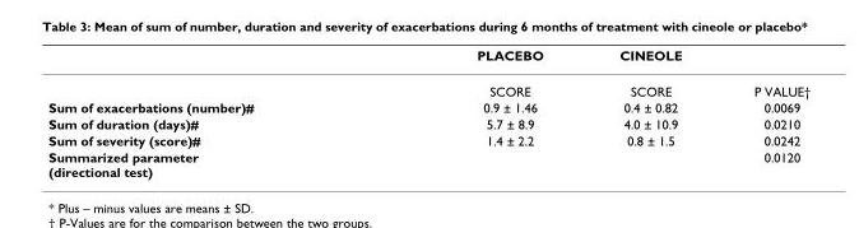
<table><thead><tr><td></td><td>PLACEBO</td><td>CINEOLE</td><td></td></tr></thead><tbody><tr><td></td><td>SCORE</td><td>SCORE</td><td>P VALUE†</td></tr><tr><td>Sum of exacerbations (number)#</td><td>0.9 ± 1.46</td><td>0.4 ± 0.82</td><td>0.0069</td></tr><tr><td>Sum of duration (days)#</td><td>5.7 ± 8.9</td><td>4.0 ± 10.9</td><td>0.0210</td></tr><tr><td>Sum of severity (score)#</td><td>1.4 ± 2.2</td><td>0.8 ± 1.5</td><td>0.0242</td></tr><tr><td>Summarized parameter (directional test)</td><td></td><td></td><td>0.0120</td></tr></tbody></table>